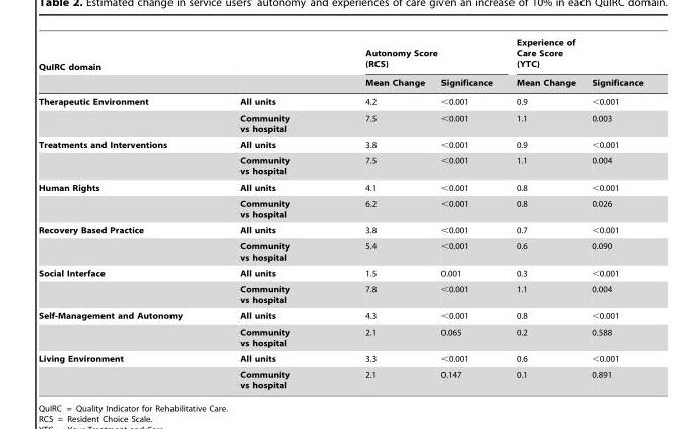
<table><thead><tr><td rowspan="2">QuIRC domain</td><td rowspan="2"></td><td colspan="2">Autonomy Score (RCS)</td><td colspan="2">Experience of Care Score (YTC)</td></tr><tr><td>Mean Change</td><td>Significance</td><td>Mean Change</td><td>Significance</td></tr></thead><tbody><tr><td rowspan="2">Therapeutic Environment</td><td>All units</td><td>4.2</td><td>&lt;0.001</td><td>0.9</td><td>&lt;0.001</td></tr><tr><td>Community vs hospital</td><td>7.5</td><td>&lt;0.001</td><td>1.1</td><td>0.003</td></tr><tr><td rowspan="2">Treatments and Interventions</td><td>All units</td><td>3.8</td><td>&lt;0.001</td><td>0.9</td><td>&lt;0.001</td></tr><tr><td>Community vs hospital</td><td>7.5</td><td>&lt;0.001</td><td>1.1</td><td>0.004</td></tr><tr><td rowspan="2">Human Rights</td><td>All units</td><td>4.1</td><td>&lt;0.001</td><td>0.8</td><td>&lt;0.001</td></tr><tr><td>Community vs hospital</td><td>6.2</td><td>&lt;0.001</td><td>0.8</td><td>0.026</td></tr><tr><td rowspan="2">Recovery Based Practice</td><td>All units</td><td>3.8</td><td>&lt;0.001</td><td>0.7</td><td>&lt;0.001</td></tr><tr><td>Community vs hospital</td><td>5.4</td><td>&lt;0.001</td><td>0.6</td><td>0.090</td></tr><tr><td rowspan="2">Social Interface</td><td>All units</td><td>1.5</td><td>0.001</td><td>0.3</td><td>&lt;0.001</td></tr><tr><td>Community vs hospital</td><td>7.8</td><td>&lt;0.001</td><td>1.1</td><td>0.004</td></tr><tr><td rowspan="2">Self-Management and Autonomy</td><td>All units</td><td>4.3</td><td>&lt;0.001</td><td>0.8</td><td>&lt;0.001</td></tr><tr><td>Community vs hospital</td><td>2.1</td><td>0.065</td><td>0.2</td><td>0.588</td></tr><tr><td rowspan="2">Living Environment</td><td>All units</td><td>3.3</td><td>&lt;0.001</td><td>0.6</td><td>&lt;0.001</td></tr><tr><td>Community vs hospital</td><td>2.1</td><td>0.147</td><td>0.1</td><td>0.891</td></tr></tbody></table>